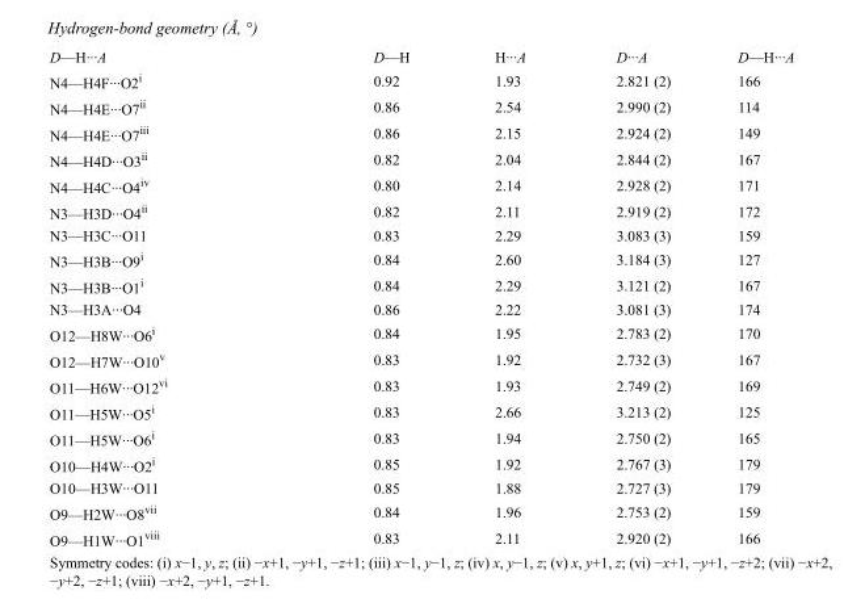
<table><tbody><tr><td>D—H···A</td><td>D—H</td><td>H···A</td><td>D···A</td><td>D—H···A</td></tr><tr><td>N4—H4F···O2<sup>i</sup></td><td>0.92</td><td>1.93</td><td>2.821 (2)</td><td>166</td></tr><tr><td>N4—H4E···O7<sup>ii</sup></td><td>0.86</td><td>2.54</td><td>2.990 (2)</td><td>114</td></tr><tr><td>N4—H4E···O7<sup>iii</sup></td><td>0.86</td><td>2.15</td><td>2.924 (2)</td><td>149</td></tr><tr><td>N4—H4D···O3<sup>ii</sup></td><td>0.82</td><td>2.04</td><td>2.844 (2)</td><td>167</td></tr><tr><td>N4—H4C···O4<sup>iv</sup></td><td>0.80</td><td>2.14</td><td>2.928 (2)</td><td>171</td></tr><tr><td>N3—H3D···O4<sup>ii</sup></td><td>0.82</td><td>2.11</td><td>2.919 (2)</td><td>172</td></tr><tr><td>N3—H3C···O11</td><td>0.83</td><td>2.29</td><td>3.083 (3)</td><td>159</td></tr><tr><td>N3—H3B···O9<sup>i</sup></td><td>0.84</td><td>2.60</td><td>3.184 (3)</td><td>127</td></tr><tr><td>N3—H3B···O1<sup>i</sup></td><td>0.84</td><td>2.29</td><td>3.121 (2)</td><td>167</td></tr><tr><td>N3—H3A···O4</td><td>0.86</td><td>2.22</td><td>3.081 (3)</td><td>174</td></tr><tr><td>O12—H8W···O6<sup>i</sup></td><td>0.84</td><td>1.95</td><td>2.783 (2)</td><td>170</td></tr><tr><td>O12—H7W···O10<sup>v</sup></td><td>0.83</td><td>1.92</td><td>2.732 (3)</td><td>167</td></tr><tr><td>O11—H6W···O12<sup>vi</sup></td><td>0.83</td><td>1.93</td><td>2.749 (2)</td><td>169</td></tr><tr><td>O11—H5W···O5<sup>i</sup></td><td>0.83</td><td>2.66</td><td>3.213 (2)</td><td>125</td></tr><tr><td>O11—H5W···O6<sup>i</sup></td><td>0.83</td><td>1.94</td><td>2.750 (2)</td><td>165</td></tr><tr><td>O10—H4W···O2<sup>i</sup></td><td>0.85</td><td>1.92</td><td>2.767 (3)</td><td>179</td></tr><tr><td>O10—H3W···O11</td><td>0.85</td><td>1.88</td><td>2.727 (3)</td><td>179</td></tr><tr><td>O9—H2W···O8<sup>vii</sup></td><td>0.84</td><td>1.96</td><td>2.753 (2)</td><td>159</td></tr><tr><td>O9—H1W···O1<sup>viii</sup></td><td>0.83</td><td>2.11</td><td>2.920 (2)</td><td>166</td></tr></tbody></table>